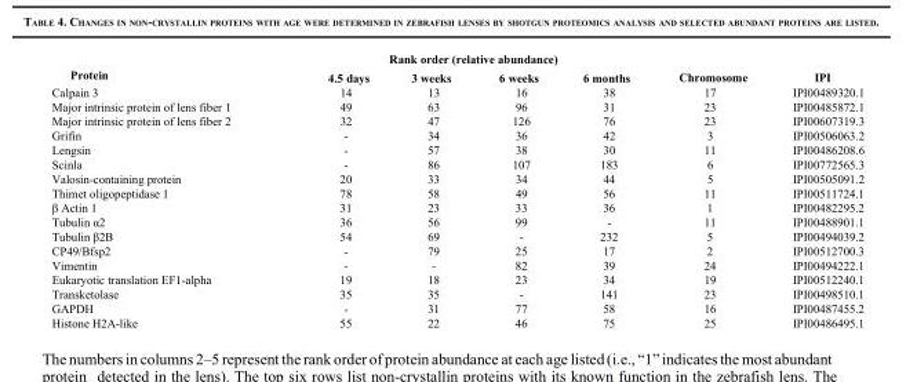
<table><tbody><tr><td rowspan="2">Protein</td><td colspan="4">Rank order (relative abundance)</td><td rowspan="2">Chromosome</td><td rowspan="2">IPI</td></tr><tr><td>4.5 days</td><td>3 weeks</td><td>6 weeks</td><td>6 months</td></tr><tr><td>Calpain 3</td><td>14</td><td>13</td><td>16</td><td>38</td><td>17</td><td>IPI00489320.1</td></tr><tr><td>Major intrinsic protein of lens fiber 1</td><td>49</td><td>63</td><td>96</td><td>31</td><td>23</td><td>IPI00485872.1</td></tr><tr><td>Major intrinsic protein of lens fiber 2</td><td>32</td><td>47</td><td>126</td><td>76</td><td>23</td><td>IPI00607319.3</td></tr><tr><td>Grifin</td><td>-</td><td>34</td><td>36</td><td>42</td><td>3</td><td>IPI00506063.2</td></tr><tr><td>Lengsin</td><td>-</td><td>57</td><td>38</td><td>30</td><td>11</td><td>IPI00486208.6</td></tr><tr><td>Scinla</td><td>-</td><td>86</td><td>107</td><td>183</td><td>6</td><td>IPI00772565.3</td></tr><tr><td>Valosin-containing protein</td><td>20</td><td>33</td><td>34</td><td>44</td><td>5</td><td>IPI00505091.2</td></tr><tr><td>Thimet oligopeptidase 1</td><td>78</td><td>58</td><td>49</td><td>56</td><td>11</td><td>IPI00511724.1</td></tr><tr><td>β Actin 1</td><td>31</td><td>23</td><td>33</td><td>36</td><td>1</td><td>IPI00482295.2</td></tr><tr><td>Tubulin α2</td><td>36</td><td>56</td><td>99</td><td>-</td><td>11</td><td>IPI00488901.1</td></tr><tr><td>Tubulin β2B</td><td>54</td><td>69</td><td>-</td><td>232</td><td>5</td><td>IPI00494039.2</td></tr><tr><td>CP49/Bfsp2</td><td>-</td><td>79</td><td>25</td><td>17</td><td>2</td><td>IPI00512700.3</td></tr><tr><td>Vimentin</td><td>-</td><td>-</td><td>82</td><td>39</td><td>24</td><td>IPI00494222.1</td></tr><tr><td>Eukaryotic translation EF1-alpha</td><td>19</td><td>18</td><td>23</td><td>34</td><td>19</td><td>IPI00512240.1</td></tr><tr><td>Transketolase</td><td>35</td><td>35</td><td>-</td><td>141</td><td>23</td><td>IPI00498510.1</td></tr><tr><td>GAPDH</td><td>-</td><td>31</td><td>77</td><td>58</td><td>16</td><td>IPI00487455.2</td></tr><tr><td>Histone H2A-like</td><td>55</td><td>22</td><td>46</td><td>75</td><td>25</td><td>IPI00486495.1</td></tr></tbody></table>